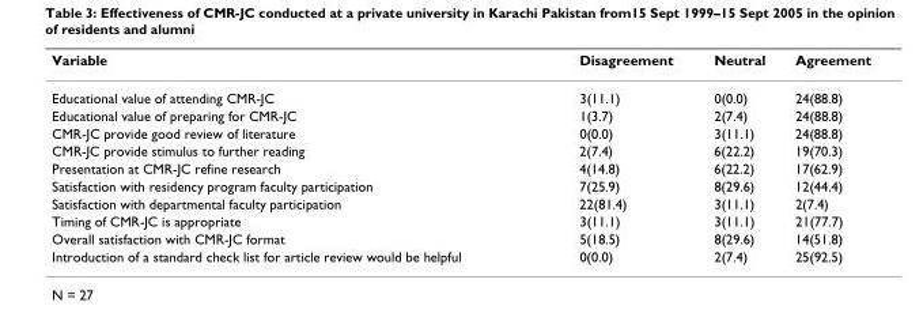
<table><thead><tr><td>Variable</td><td>Disagreement</td><td>Neutral</td><td>Agreement</td></tr></thead><tbody><tr><td>Educational value of attending CMR-JC</td><td>3(11.1)</td><td>0(0.0)</td><td>24(88.8)</td></tr><tr><td>Educational value of preparing for CMR-JC</td><td>1(3.7)</td><td>2(7.4)</td><td>24(88.8)</td></tr><tr><td>CMR-JC provide good review of literature</td><td>0(0.0)</td><td>3(11.1)</td><td>24(88.8)</td></tr><tr><td>CMR-JC provide stimulus to further reading</td><td>2(7.4)</td><td>6(22.2)</td><td>19(70.3)</td></tr><tr><td>Presentation at CMR-JC refine research</td><td>4(14.8)</td><td>6(22.2)</td><td>17(62.9)</td></tr><tr><td>Satisfaction with residency program faculty participation</td><td>7(25.9)</td><td>8(29.6)</td><td>12(44.4)</td></tr><tr><td>Satisfaction with departmental faculty participation</td><td>22(81.4)</td><td>3(11.1)</td><td>2(7.4)</td></tr><tr><td>Timing of CMR-JC is appropriate</td><td>3(11.1)</td><td>3(11.1)</td><td>21(77.7)</td></tr><tr><td>Overall satisfaction with CMR-JC format</td><td>5(18.5)</td><td>8(29.6)</td><td>14(51.8)</td></tr><tr><td>Introduction of a standard check list for article review would be helpful</td><td>0(0.0)</td><td>2(7.4)</td><td>25(92.5)</td></tr></tbody></table>